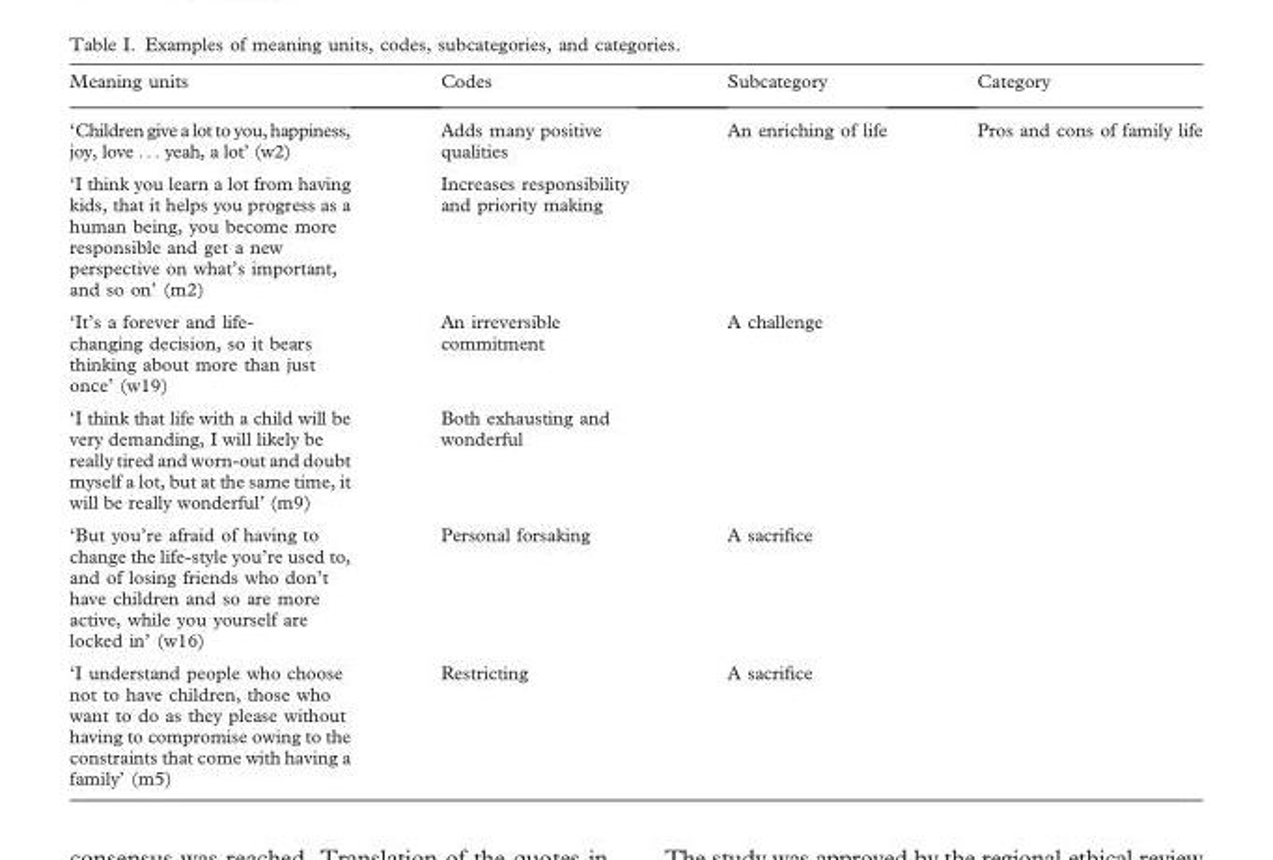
<table><thead><tr><td>Meaning units</td><td>Codes</td><td>Subcategory</td><td>Category</td></tr></thead><tbody><tr><td>‘Children give a lotto you, happiness, joy, love ... yeah, a lot’ (w2)</td><td>Adds many positive qualities</td><td>An enriching of life</td><td>Pros and cons of family life</td></tr><tr><td>‘I think you learn a lot from having kids, that it helps you progress as a human being, you become more responsible and get a new perspective on what’s important, and so on’ (m2)</td><td>Increases responsibility and priority making</td><td></td><td></td></tr><tr><td>‘It’s a forever and life- changing decision, so it bears thinking about more than just once’ (w19)</td><td>An irreversible commitment</td><td>A challenge</td><td></td></tr><tr><td>‘I think that life with a child will be very demanding, I will likely be really tired and worn-out and doubt myself a lot, but at the same time, it will be really wonderful’ (m9)</td><td>Both exhausting and wonderful</td><td></td><td></td></tr><tr><td>‘But you’re afraid of having to change the life-style you’re used to, and of losing friends who don’t have children and so are more active, while you yourself are locked in’ (w16)</td><td>Personal forsaking</td><td>A sacrifice</td><td></td></tr><tr><td>‘I understand people who choose not to have children, those who want to do as they please without having to compromise owing to the constraints that come with having a family’ (m5)</td><td>Restricting</td><td>A sacrifice</td><td></td></tr></tbody></table>